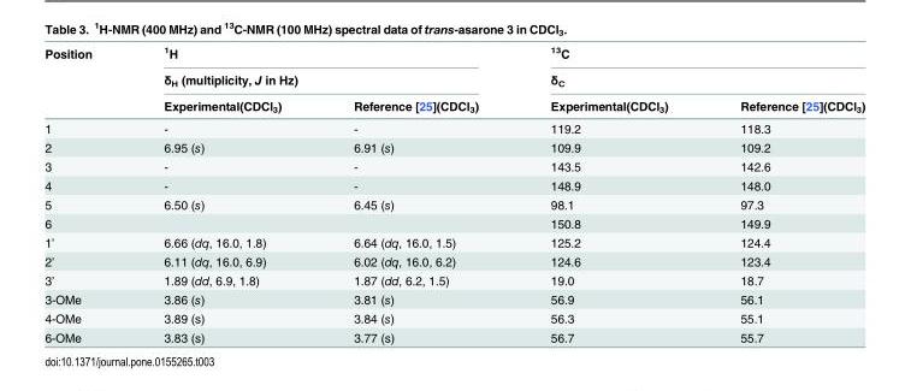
<table><thead><tr><td rowspan="3">Position</td><td rowspan="2" colspan="2"><sup>1</sup>H δ<sub>H</sub> (multiplicity, J in Hz)</td><td rowspan="2" colspan="2"><sup>13</sup>C δ<sub>C</sub></td></tr><tr></tr><tr><td>Experimental(CDCl<sub>3</sub>)</td><td>Reference [25](CDCl<sub>3</sub>)</td><td>Experimental(CDCl<sub>3</sub>)</td><td>Reference [25](CDCl<sub>3</sub>)</td></tr></thead><tbody><tr><td>1</td><td>-</td><td>-</td><td>119.2</td><td>118.3</td></tr><tr><td>2</td><td>6.95 (s)</td><td>6.91 (s)</td><td>109.9</td><td>109.2</td></tr><tr><td>3</td><td>-</td><td>-</td><td>143.5</td><td>142.6</td></tr><tr><td>4</td><td>-</td><td>-</td><td>148.9</td><td>148.0</td></tr><tr><td>5</td><td>6.50 (s)</td><td>6.45 (s)</td><td>98.1</td><td>97.3</td></tr><tr><td>6</td><td></td><td></td><td>150.8</td><td>149.9</td></tr><tr><td>1’</td><td>6.66 (dq, 16.0, 1.8)</td><td>6.64 (dq, 16.0, 1.5)</td><td>125.2</td><td>124.4</td></tr><tr><td>2’</td><td>6.11 (dq, 16.0, 6.9)</td><td>6.02 (dq, 16.0, 6.2)</td><td>124.6</td><td>123.4</td></tr><tr><td>3’</td><td>1.89 (dd, 6.9, 1.8)</td><td>1.87 (dd, 6.2, 1.5)</td><td>19.0</td><td>18.7</td></tr><tr><td>3-OMe</td><td>3.86 (s)</td><td>3.81 (s)</td><td>56.9</td><td>56.1</td></tr><tr><td>4-OMe</td><td>3.89 (s)</td><td>3.84 (s)</td><td>56.3</td><td>55.1</td></tr><tr><td>6-OMe</td><td>3.83 (s)</td><td>3.77 (s)</td><td>56.7</td><td>55.7</td></tr></tbody></table>